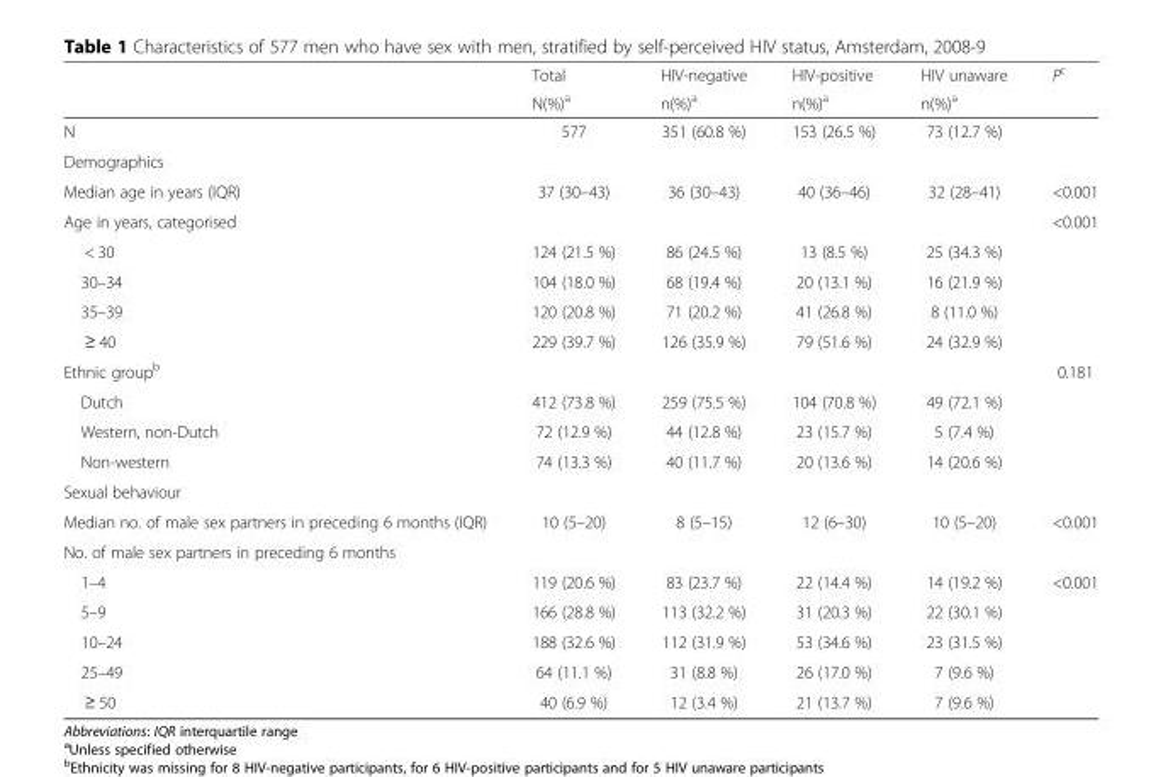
<table><thead><tr><td rowspan="2"></td><td rowspan="2">Total N(%)a</td><td rowspan="2">HIV-negative n(%)a</td><td rowspan="2">HIV-positive n(%)a</td><td rowspan="2">HIV unaware n(%)a</td><td rowspan="2">P<sup>c</sup></td></tr><tr></tr></thead><tbody><tr><td>N</td><td>577</td><td>351 (60.8 %)</td><td>153 (26.5 %)</td><td>73 (12.7 %)</td><td></td></tr><tr><td colspan="6">Demographics</td></tr><tr><td>Median age in years (IQR)</td><td>37 (30–43)</td><td>36 (30–43)</td><td>40 (36–46)</td><td>32 (28–41)</td><td>&lt;0.001</td></tr><tr><td>Age in years, categorised</td><td></td><td></td><td></td><td></td><td>&lt;0.001</td></tr><tr><td>&lt; 30</td><td>124 (21.5 %)</td><td>86 (24.5 %)</td><td>13 (8.5 %)</td><td>25 (34.3 %)</td><td></td></tr><tr><td>30–34</td><td>104 (18.0 %)</td><td>68 (19.4 %)</td><td>20 (13.1 %)</td><td>16 (21.9 %)</td><td></td></tr><tr><td>35–39</td><td>120 (20.8 %)</td><td>71 (20.2 %)</td><td>41 (26.8 %)</td><td>8 (11.0 %)</td><td></td></tr><tr><td>≥ 40</td><td>229 (39.7 %)</td><td>126 (35.9 %)</td><td>79 (51.6 %)</td><td>24 (32.9 %)</td><td></td></tr><tr><td>Ethnic group<sup>b</sup></td><td></td><td></td><td></td><td></td><td>0.181</td></tr><tr><td>Dutch</td><td>412 (73.8 %)</td><td>259 (75.5 %)</td><td>104 (70.8 %)</td><td>49 (72.1 %)</td><td></td></tr><tr><td>Western, non-Dutch</td><td>72 (12.9 %)</td><td>44 (12.8 %)</td><td>23 (15.7 %)</td><td>5 (7.4 %)</td><td></td></tr><tr><td>Non-western</td><td>74 (13.3 %)</td><td>40 (11.7 %)</td><td>20 (13.6 %)</td><td>14 (20.6 %)</td><td></td></tr><tr><td colspan="6">Sexual behaviour</td></tr><tr><td>Median no. of male sex partners in preceding 6 months (IQR)</td><td>10 (5–20)</td><td>8 (5–15)</td><td>12 (6–30)</td><td>10 (5–20)</td><td>&lt;0.001</td></tr><tr><td colspan="6">No. of male sex partners in preceding 6 months</td></tr><tr><td>1–4</td><td>119 (20.6 %)</td><td>83 (23.7 %)</td><td>22 (14.4 %)</td><td>14 (19.2 %)</td><td>&lt;0.001</td></tr><tr><td>5–9</td><td>166 (28.8 %)</td><td>113 (32.2 %)</td><td>31 (20.3 %)</td><td>22 (30.1 %)</td><td></td></tr><tr><td>10–24</td><td>188 (32.6 %)</td><td>112 (31.9 %)</td><td>53 (34.6 %)</td><td>23 (31.5 %)</td><td></td></tr><tr><td>25–49</td><td>64 (11.1 %)</td><td>31 (8.8 %)</td><td>26 (17.0 %)</td><td>7 (9.6 %)</td><td></td></tr><tr><td>≥ 50</td><td>40 (6.9 %)</td><td>12 (3.4 %)</td><td>21 (13.7 %)</td><td>7 (9.6 %)</td><td></td></tr></tbody></table>